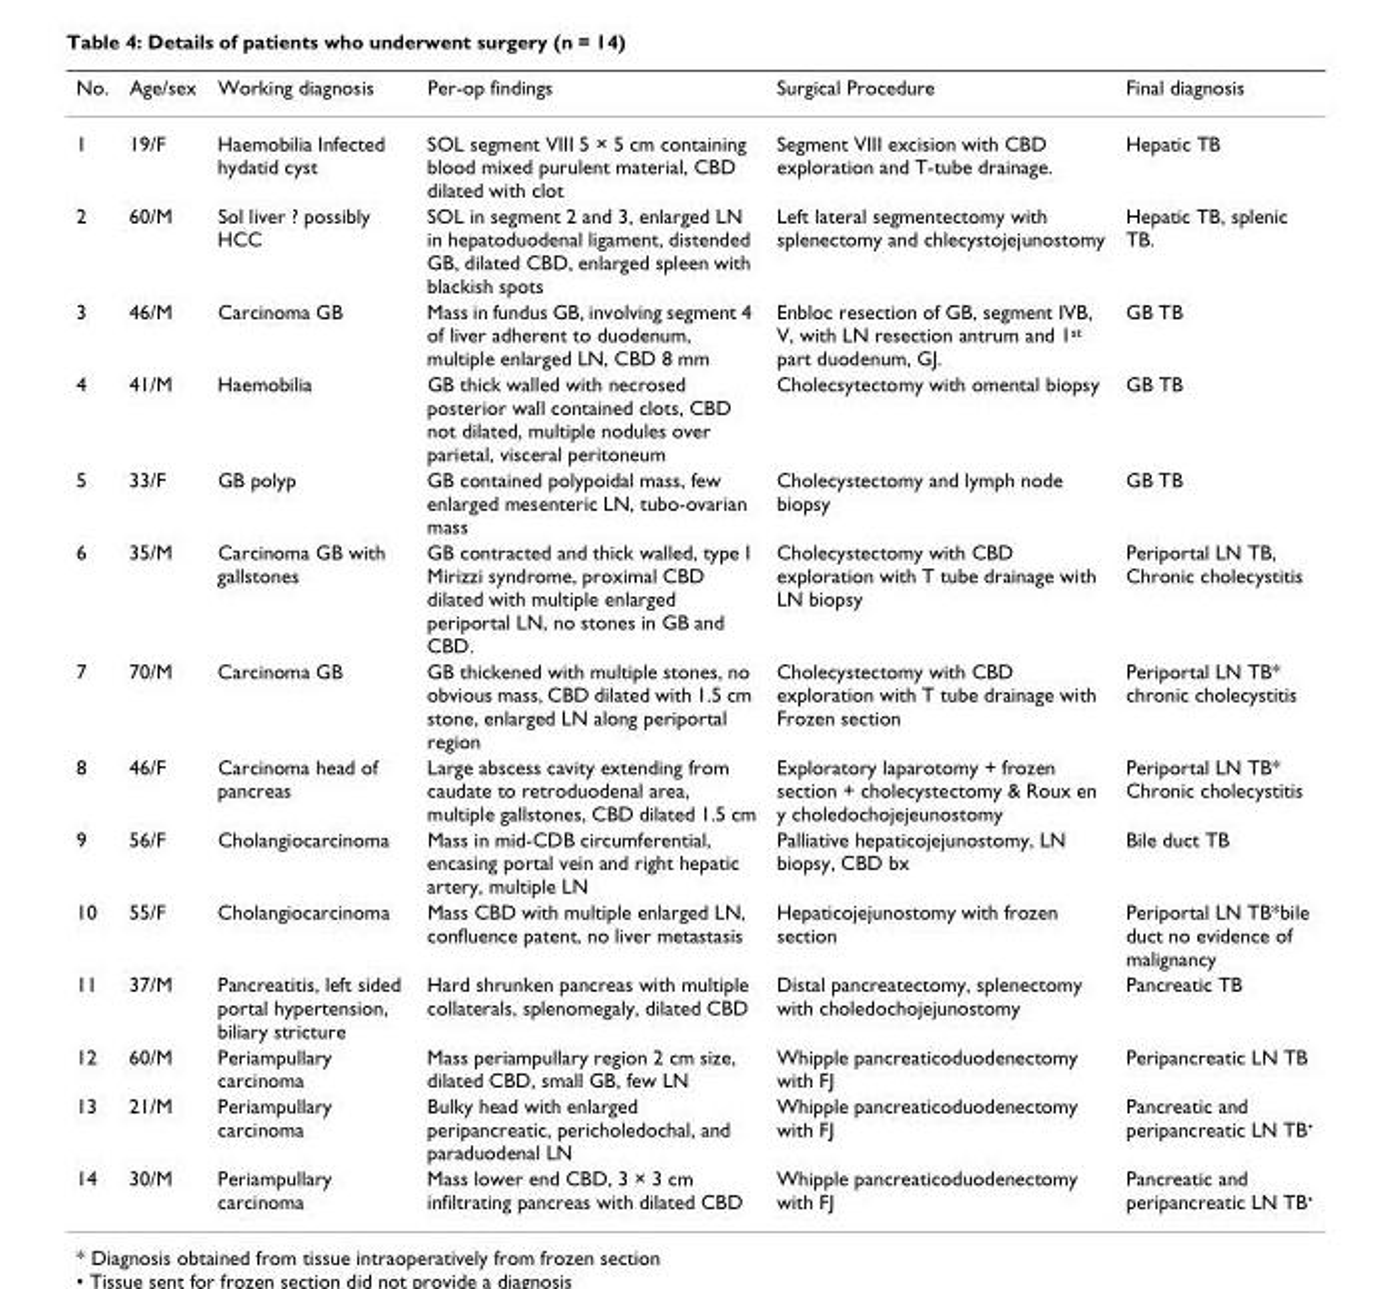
<table><thead><tr><td>No.</td><td>Age/sex</td><td>Working diagnosis</td><td>Per-op findings</td><td>Surgical Procedure</td><td>Final diagnosis</td></tr></thead><tbody><tr><td>1</td><td>19/F</td><td>Haemobilia Infected hydatid cyst</td><td>SOL segment VIII 5 × 5 cm containing blood mixed purulent material, CBD dilated with clot</td><td>Segment VIII excision with CBD exploration and T-tube drainage.</td><td>Hepatic TB</td></tr><tr><td>2</td><td>60/M</td><td>Sol liver ? possibly HCC</td><td>SOL in segment 2 and 3, enlarged LN in hepatoduodenal ligament, distended GB, dilated CBD, enlarged spleen with blackish spots</td><td>Left lateral segmentectomy with splenectomy and chlecystojejunostomy</td><td>Hepatic TB, splenic TB.</td></tr><tr><td>3</td><td>46/M</td><td>Carcinoma GB</td><td>Mass in fundus GB, involving segment 4 of liver adherent to duodenum, multiple enlarged LN, CBD 8 mm</td><td>Enbloc resection of GB, segment IVB, V, with LN resection antrum and 1<sup>st</sup> part duodenum, GJ.</td><td>GB TB</td></tr><tr><td>4</td><td>41/M</td><td>Haemobilia</td><td>GB thick walled with necrosed posterior wall contained clots, CBD not dilated, multiple nodules over parietal, visceral peritoneum</td><td>Cholecsytectomy with omental biopsy</td><td>GB TB</td></tr><tr><td>5</td><td>33/F</td><td>GB polyp</td><td>GB contained polypoidal mass, few enlarged mesenteric LN, tubo-ovarian mass</td><td>Cholecystectomy and lymph node biopsy</td><td>GB TB</td></tr><tr><td>6</td><td>35/M</td><td>Carcinoma GB with gallstones</td><td>GB contracted and thick walled, type I Mirizzi syndrome, proximal CBD dilated with multiple enlarged periportal LN, no stones in GB and CBD.</td><td>Cholecystectomy with CBD exploration with T tube drainage with LN biopsy</td><td>Periportal LN TB, Chronic cholecystitis</td></tr><tr><td>7</td><td>70/M</td><td>Carcinoma GB</td><td>GB thickened with multiple stones, no obvious mass, CBD dilated with 1.5 cm stone, enlarged LN along periportal region</td><td>Cholecystectomy with CBD exploration with T tube drainage with Frozen section</td><td>Periportal LN TB* chronic cholecystitis</td></tr><tr><td>8</td><td>46/F</td><td>Carcinoma head of pancreas</td><td>Large abscess cavity extending from caudate to retroduodenal area, multiple gallstones, CBD dilated 1.5 cm</td><td>Exploratory laparotomy + frozen section + cholecystectomy &amp; Roux en y choledochojejeunostomy</td><td>Periportal LN TB* Chronic cholecystitis</td></tr><tr><td>9</td><td>56/F</td><td>Cholangiocarcinoma</td><td>Mass in mid-CDB circumferential, encasing portal vein and right hepatic artery, multiple LN</td><td>Palliative hepaticojejunostomy, LN biopsy, CBD bx</td><td>Bile duct TB</td></tr><tr><td>10</td><td>55/F</td><td>Cholangiocarcinoma</td><td>Mass CBD with multiple enlarged LN, confluence patent, no liver metastasis</td><td>Hepaticojejunostomy with frozen section</td><td>Periportal LN TB*bile duct no evidence of malignancy</td></tr><tr><td>11</td><td>37/M</td><td>Pancreatitis, left sided portal hypertension, biliary stricture</td><td>Hard shrunken pancreas with multiple collaterals, splenomegaly, dilated CBD</td><td>Distal pancreatectomy, splenectomy with choledochojejunostomy</td><td>Pancreatic TB</td></tr><tr><td>12</td><td>60/M</td><td>Periampullary carcinoma</td><td>Mass periampullary region 2 cm size, dilated CBD, small GB, few LN</td><td>Whipple pancreaticoduodenectomy with FJ</td><td>Peripancreatic LN TB</td></tr><tr><td>13</td><td>21/M</td><td>Periampullary carcinoma</td><td>Bulky head with enlarged peripancreatic, pericholedochal, and paraduodenal LN</td><td>Whipple pancreaticoduodenectomy with FJ</td><td>Pancreatic and peripancreatic LN TB<sup>•</sup></td></tr><tr><td>14</td><td>30/M</td><td>Periampullary carcinoma</td><td>Mass lower end CBD, 3 × 3 cm infiltrating pancreas with dilated CBD</td><td>Whipple pancreaticoduodenectomy with FJ</td><td>Pancreatic and peripancreatic LN TB<sup>•</sup></td></tr></tbody></table>